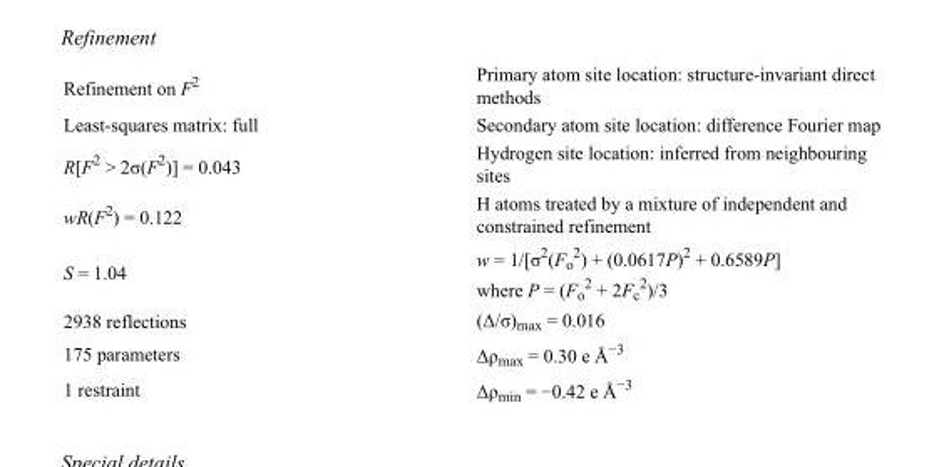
<table><tbody><tr><td>Refinement on F<sup>2</sup></td><td>Primary atom site location: structure-invariant direct methods</td></tr><tr><td>Least-squares matrix: full</td><td>Secondary atom site location: difference Fourier map</td></tr><tr><td>R[F<sup>2</sup> &gt; 2σ(F<sup>2</sup>)] = 0.043</td><td>Hydrogen site location: inferred from neighbouring sites</td></tr><tr><td>wR(F<sup>2</sup>) = 0.122</td><td>H atoms treated by a mixture of independent and constrained refinement</td></tr><tr><td>S = 1.04</td><td>w = 1/[σ<sup>2</sup>(F<sub>o</sub> <sup>2</sup>) + (0.0617P)<sup>2</sup> + 0.6589P] where P = (F<sub>o</sub> <sup>2</sup> + 2F<sub>c</sub> <sup>2</sup>)/3</td></tr><tr><td>2938 reflections</td><td>(Δ/σ)<sub>max</sub> = 0.016</td></tr><tr><td>175 parameters</td><td>Δρ<sub>max</sub> = 0.30 e Å<sup>−3</sup></td></tr><tr><td>1 restraint</td><td>Δρmin = −0.42 e Å−3</td></tr></tbody></table>